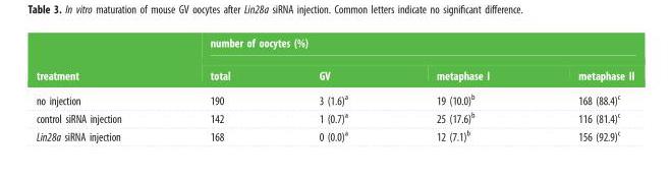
<table><thead><tr><td rowspan="2">treatment</td><td colspan="4">number of oocytes (%)</td></tr><tr><td>total</td><td>GV</td><td>metaphase I</td><td>metaphase II</td></tr></thead><tbody><tr><td>no injection</td><td>190</td><td>3 (1.6)<sup>a</sup></td><td>19 (10.0)<sup>b</sup></td><td>168 (88.4)<sup>c</sup></td></tr><tr><td>control siRNA injection</td><td>142</td><td>1 (0.7)<sup>a</sup></td><td>25 (17.6)<sup>b</sup></td><td>116 (81.4)<sup>c</sup></td></tr><tr><td>Lin28a siRNA injection</td><td>168</td><td>0 (0.0)<sup>a</sup></td><td>12 (7.1)<sup>b</sup></td><td>156 (92.9)<sup>c</sup></td></tr></tbody></table>